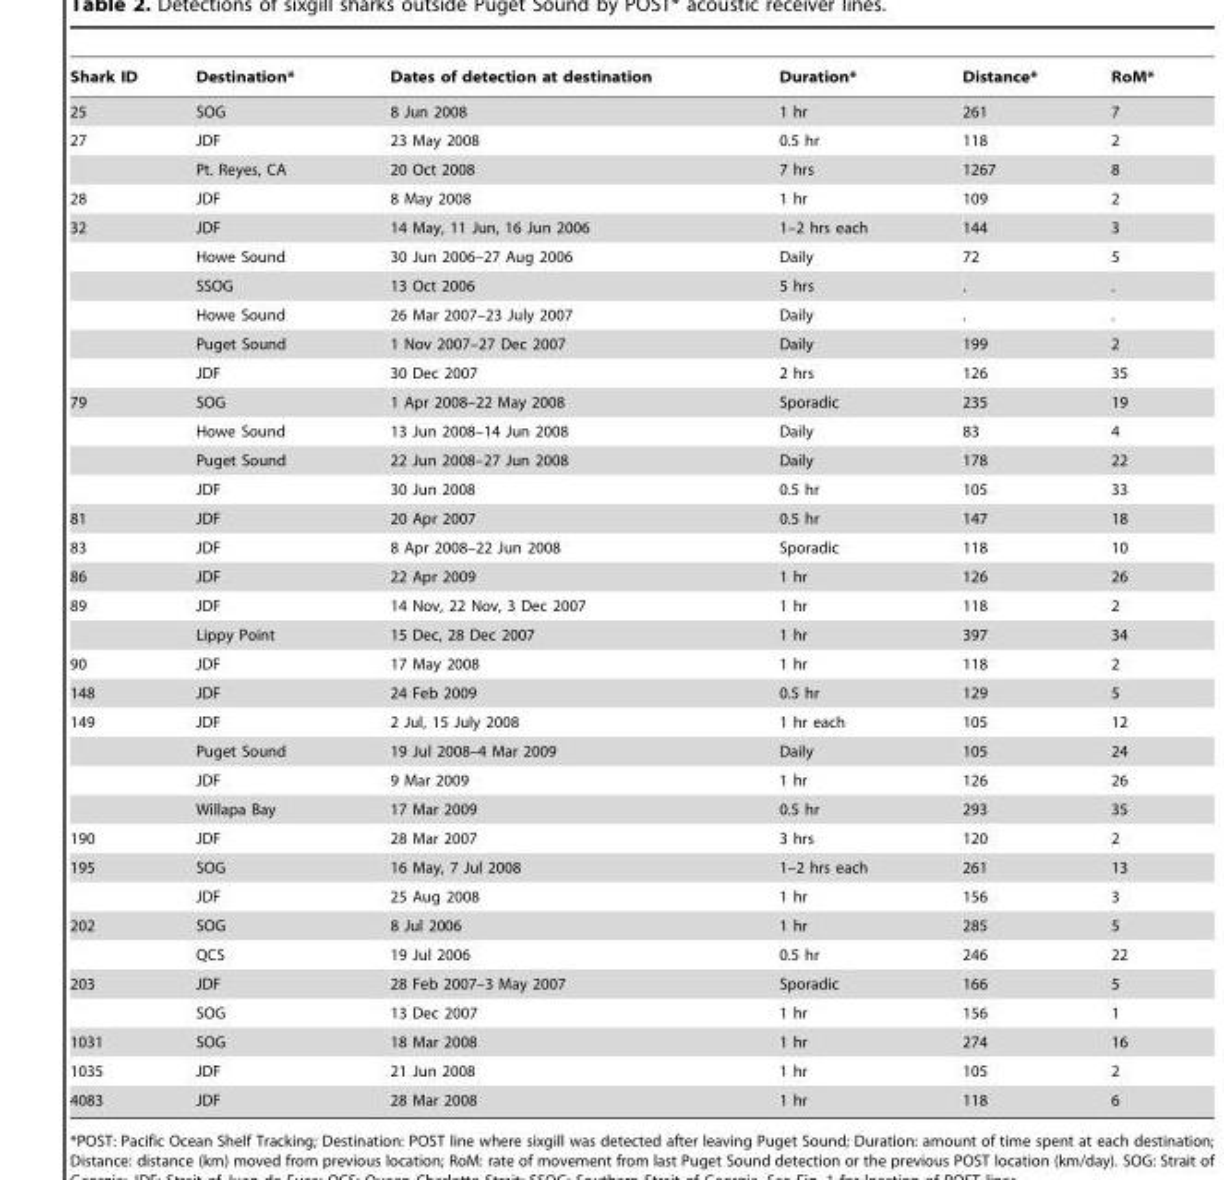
<table><thead><tr><td>Shark ID</td><td>Destination*</td><td>Dates of detection at destination</td><td>Duration*</td><td>Distance*</td><td>RoM*</td></tr></thead><tbody><tr><td>25</td><td>SOG</td><td>8 Jun 2008</td><td>1 hr</td><td>261</td><td>7</td></tr><tr><td rowspan="2">27</td><td>JDF</td><td>23 May 2008</td><td>0.5 hr</td><td>118</td><td>2</td></tr><tr><td>Pt. Reyes, CA</td><td>20 Oct 2008</td><td>7 hrs</td><td>1267</td><td>8</td></tr><tr><td>28</td><td>JDF</td><td>8 May 2008</td><td>1 hr</td><td>109</td><td>2</td></tr><tr><td rowspan="6">32</td><td>JDF</td><td>14 May, 11 Jun, 16 Jun 2006</td><td>1–2 hrs each</td><td>144</td><td>3</td></tr><tr><td>Howe Sound</td><td>30 Jun 2006–27 Aug 2006</td><td>Daily</td><td>72</td><td>5</td></tr><tr><td>SSOG</td><td>13 Oct 2006</td><td>5 hrs</td><td>.</td><td>.</td></tr><tr><td>Howe Sound</td><td>26 Mar 2007–23 July 2007</td><td>Daily</td><td>.</td><td>.</td></tr><tr><td>Puget Sound</td><td>1 Nov 2007–27 Dec 2007</td><td>Daily</td><td>199</td><td>2</td></tr><tr><td>JDF</td><td>30 Dec 2007</td><td>2 hrs</td><td>126</td><td>35</td></tr><tr><td rowspan="4">79</td><td>SOG</td><td>1 Apr 2008–22 May 2008</td><td>Sporadic</td><td>235</td><td>19</td></tr><tr><td>Howe Sound</td><td>13 Jun 2008–14 Jun 2008</td><td>Daily</td><td>83</td><td>4</td></tr><tr><td>Puget Sound</td><td>22 Jun 2008–27 Jun 2008</td><td>Daily</td><td>178</td><td>22</td></tr><tr><td>JDF</td><td>30 Jun 2008</td><td>0.5 hr</td><td>105</td><td>33</td></tr><tr><td>81</td><td>JDF</td><td>20 Apr 2007</td><td>0.5 hr</td><td>147</td><td>18</td></tr><tr><td>83</td><td>JDF</td><td>8 Apr 2008–22 Jun 2008</td><td>Sporadic</td><td>118</td><td>10</td></tr><tr><td>86</td><td>JDF</td><td>22 Apr 2009</td><td>1 hr</td><td>126</td><td>26</td></tr><tr><td rowspan="2">89</td><td>JDF</td><td>14 Nov, 22 Nov, 3 Dec 2007</td><td>1 hr</td><td>118</td><td>2</td></tr><tr><td>Lippy Point</td><td>15 Dec, 28 Dec 2007</td><td>1 hr</td><td>397</td><td>34</td></tr><tr><td>90</td><td>JDF</td><td>17 May 2008</td><td>1 hr</td><td>118</td><td>2</td></tr><tr><td>148</td><td>JDF</td><td>24 Feb 2009</td><td>0.5 hr</td><td>129</td><td>5</td></tr><tr><td rowspan="4">149</td><td>JDF</td><td>2 Jul, 15 July 2008</td><td>1 hr each</td><td>105</td><td>12</td></tr><tr><td>Puget Sound</td><td>19 Jul 2008–4 Mar 2009</td><td>Daily</td><td>105</td><td>24</td></tr><tr><td>JDF</td><td>9 Mar 2009</td><td>1 hr</td><td>126</td><td>26</td></tr><tr><td>Willapa Bay</td><td>17 Mar 2009</td><td>0.5 hr</td><td>293</td><td>35</td></tr><tr><td>190</td><td>JDF</td><td>28 Mar 2007</td><td>3 hrs</td><td>120</td><td>2</td></tr><tr><td rowspan="2">195</td><td>SOG</td><td>16 May, 7 Jul 2008</td><td>1–2 hrs each</td><td>261</td><td>13</td></tr><tr><td>JDF</td><td>25 Aug 2008</td><td>1 hr</td><td>156</td><td>3</td></tr><tr><td rowspan="2">202</td><td>SOG</td><td>8 Jul 2006</td><td>1 hr</td><td>285</td><td>5</td></tr><tr><td>QCS</td><td>19 Jul 2006</td><td>0.5 hr</td><td>246</td><td>22</td></tr><tr><td rowspan="2">203</td><td>JDF</td><td>28 Feb 2007–3 May 2007</td><td>Sporadic</td><td>166</td><td>5</td></tr><tr><td>SOG</td><td>13 Dec 2007</td><td>1 hr</td><td>156</td><td>1</td></tr><tr><td>1031</td><td>SOG</td><td>18 Mar 2008</td><td>1 hr</td><td>274</td><td>16</td></tr><tr><td>1035</td><td>JDF</td><td>21 Jun 2008</td><td>1 hr</td><td>105</td><td>2</td></tr><tr><td>4083</td><td>JDF</td><td>28 Mar 2008</td><td>1 hr</td><td>118</td><td>6</td></tr></tbody></table>